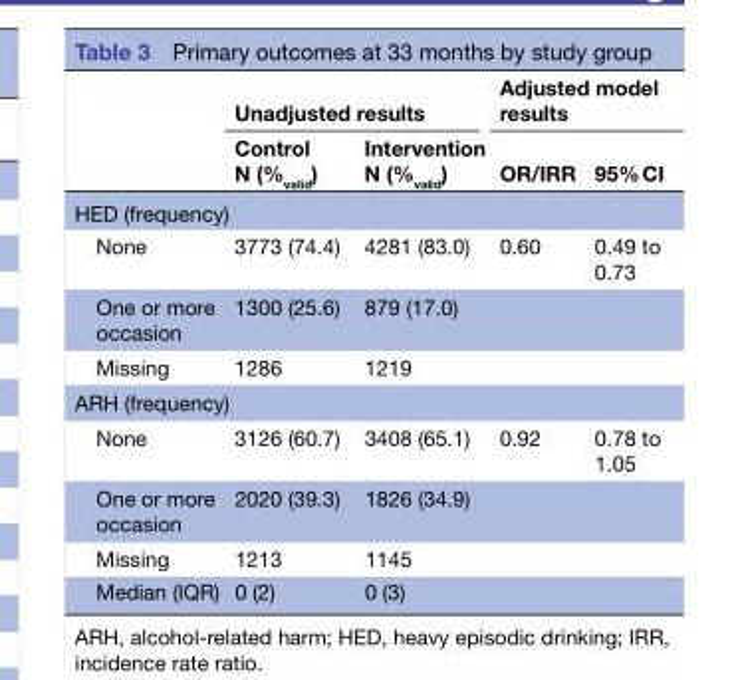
<table><thead><tr><td rowspan="2"></td><td colspan="2">Unadjusted results</td><td colspan="2">Adjusted model results</td></tr><tr><td>Control N (%<sub>valid</sub>)</td><td>Intervention N (%<sub>valid</sub>)</td><td>OR/IRR</td><td>95% CI</td></tr></thead><tbody><tr><td colspan="5">HED (frequency)</td></tr><tr><td>None</td><td>3773 (74.4)</td><td>4281 (83.0)</td><td>0.60</td><td>0.49 to 0.73</td></tr><tr><td>One or more occasion</td><td>1300 (25.6)</td><td>879 (17.0)</td><td></td><td></td></tr><tr><td>Missing</td><td>1286</td><td>1219</td><td></td><td></td></tr><tr><td colspan="5">ARH (frequency)</td></tr><tr><td>None</td><td>3126 (60.7)</td><td>3408 (65.1)</td><td>0.92</td><td>0.78 to 1.05</td></tr><tr><td>One or more occasion</td><td>2020 (39.3)</td><td>1826 (34.9)</td><td></td><td></td></tr><tr><td>Missing</td><td>1213</td><td>1145</td><td></td><td></td></tr><tr><td>Median (IQR)</td><td>0 (2)</td><td>0 (3)</td><td></td><td></td></tr></tbody></table>